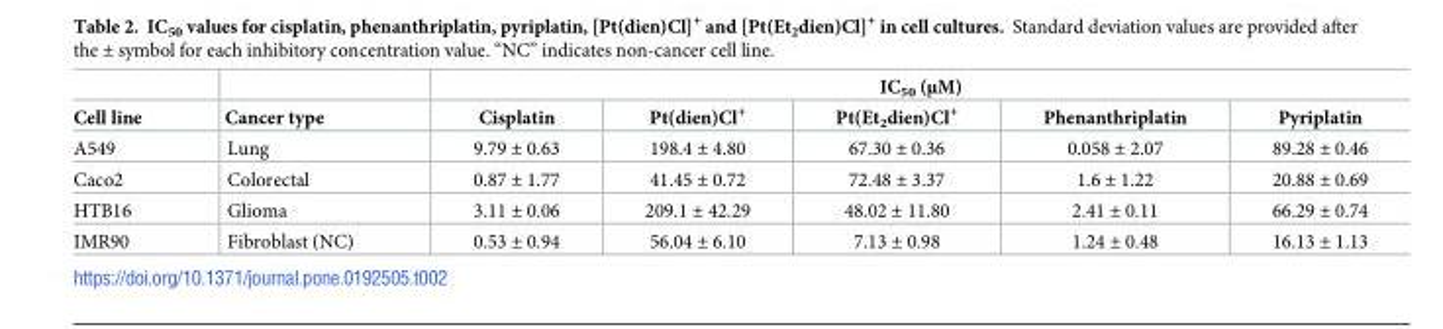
<table><thead><tr><td rowspan="2">Cell line</td><td rowspan="2">Cancer type</td><td colspan="5">IC<sub>50</sub> (μM)</td></tr><tr><td>Cisplatin</td><td>Pt(dien)Cl<sup>+</sup></td><td>Pt(Et<sub>2</sub>dien)Cl<sup>+</sup></td><td>Phenanthriplatin</td><td>Pyriplatin</td></tr></thead><tbody><tr><td>A549</td><td>Lung</td><td>9.79 ± 0.63</td><td>198.4 ± 4.80</td><td>67.30 ± 0.36</td><td>0.058 ± 2.07</td><td>89.28 ± 0.46</td></tr><tr><td>Caco2</td><td>Colorectal</td><td>0.87 ± 1.77</td><td>41.45 ± 0.72</td><td>72.48 ± 3.37</td><td>1.6 ± 1.22</td><td>20.88 ± 0.69</td></tr><tr><td>HTB16</td><td>Glioma</td><td>3.11 ± 0.06</td><td>209.1 ± 42.29</td><td>48.02 ± 11.80</td><td>2.41 ± 0.11</td><td>66.29 ± 0.74</td></tr><tr><td>IMR90</td><td>Fibroblast (NC)</td><td>0.53 ± 0.94</td><td>56.04 ± 6.10</td><td>7.13 ± 0.98</td><td>1.24 ± 0.48</td><td>16.13 ± 1.13</td></tr></tbody></table>